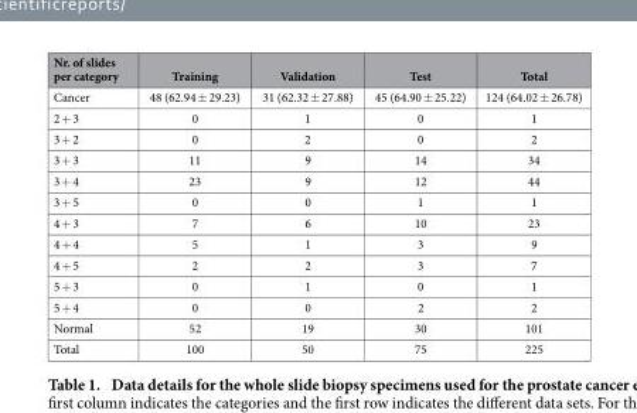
<table><thead><tr><td>Nr. of slides per category</td><td>Training</td><td>Validation</td><td>Test</td><td>Total</td></tr></thead><tbody><tr><td>Cancer</td><td>48 (62.94 ± 29.23)</td><td>31 (62.32 ± 27.88)</td><td>45 (64.90 ± 25.22)</td><td>124 (64.02 ± 26.78)</td></tr><tr><td>2 + 3</td><td>0</td><td>1</td><td>0</td><td>1</td></tr><tr><td>3 + 2</td><td>0</td><td>2</td><td>0</td><td>2</td></tr><tr><td>3 + 3</td><td>11</td><td>9</td><td>14</td><td>34</td></tr><tr><td>3 + 4</td><td>23</td><td>9</td><td>12</td><td>44</td></tr><tr><td>3 + 5</td><td>0</td><td>0</td><td>1</td><td>1</td></tr><tr><td>4 + 3</td><td>7</td><td>6</td><td>10</td><td>23</td></tr><tr><td>4 + 4</td><td>5</td><td>1</td><td>3</td><td>9</td></tr><tr><td>4 + 5</td><td>2</td><td>2</td><td>3</td><td>7</td></tr><tr><td>5 + 3</td><td>0</td><td>1</td><td>0</td><td>1</td></tr><tr><td>5 + 4</td><td>0</td><td>0</td><td>2</td><td>2</td></tr><tr><td>Normal</td><td>52</td><td>19</td><td>30</td><td>101</td></tr><tr><td>Total</td><td>100</td><td>50</td><td>75</td><td>225</td></tr></tbody></table>